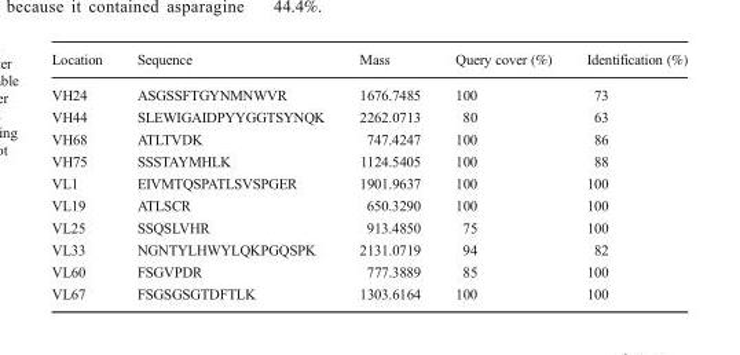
<table><thead><tr><td>Location</td><td>Sequence</td><td>Mass</td><td>Query cover (%)</td><td>Identification (%)</td></tr></thead><tbody><tr><td>VH24</td><td>ASGSSFTGYNMNWVR</td><td>1676.7485</td><td>100</td><td>73</td></tr><tr><td>VH44</td><td>SLEWIGAIDPYYGGTSYNQK</td><td>2262.0713</td><td>80</td><td>63</td></tr><tr><td>VH68</td><td>ATLTVDK</td><td>747.4247</td><td>100</td><td>86</td></tr><tr><td>VH75</td><td>SSSTAYMHLK</td><td>1124.5405</td><td>100</td><td>88</td></tr><tr><td>VL1</td><td>EIVMTQSPATLSVSPGER</td><td>1901.9637</td><td>100</td><td>100</td></tr><tr><td>VL19</td><td>ATLSCR</td><td>650.3290</td><td>100</td><td>100</td></tr><tr><td>VL25</td><td>SSQSLVHR</td><td>913.4850</td><td>75</td><td>100</td></tr><tr><td>VL33</td><td>NGNTYLHWYLQKPGQSPK</td><td>2131.0719</td><td>94</td><td>82</td></tr><tr><td>VL60</td><td>FSGVPDR</td><td>777.3889</td><td>85</td><td>100</td></tr><tr><td>VL67</td><td>FSGSGSGTDFTLK</td><td>1303.6164</td><td>100</td><td>100</td></tr></tbody></table>